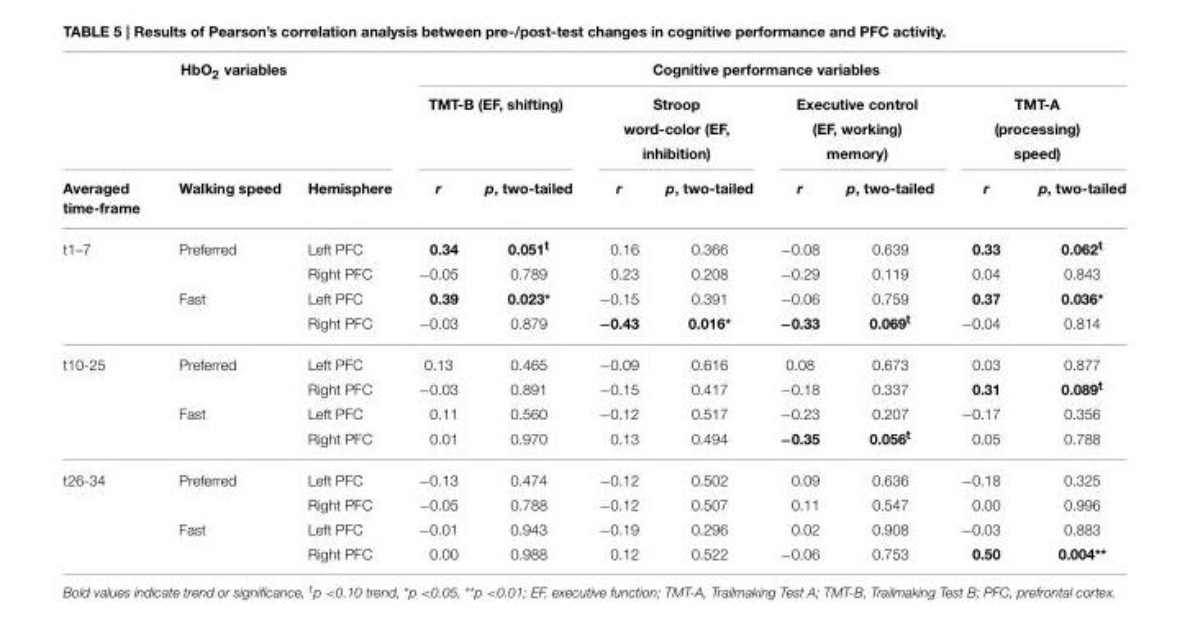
<table><thead><tr><td colspan="3">HbO<sub>2</sub> variables</td><td colspan="8">Cognitive performance variables</td></tr><tr><td rowspan="2">Averaged time-frame</td><td rowspan="2">Walking speed</td><td rowspan="2">Hemisphere</td><td colspan="2">TMT-B (EF, shifting)</td><td colspan="2">Stroop word-color (EF, inhibition)</td><td colspan="2">Executive control (EF, working) memory)</td><td colspan="2">TMT-A (processing) speed)</td></tr><tr><td>r</td><td>p, two-tailed</td><td>r</td><td>p, two-tailed</td><td>r</td><td>p, two-tailed</td><td>r</td><td>p, two-tailed</td></tr></thead><tbody><tr><td rowspan="4">t1–7</td><td>Preferred</td><td>Left PFC</td><td>0.34</td><td>0.051<sup>t</sup></td><td>0.16</td><td>0.366</td><td>−0.08</td><td>0.639</td><td>0.33</td><td>0.062<sup>t</sup></td></tr><tr><td></td><td>Right PFC</td><td>−0.05</td><td>0.789</td><td>0.23</td><td>0.208</td><td>−0.29</td><td>0.119</td><td>0.04</td><td>0.843</td></tr><tr><td>Fast</td><td>Left PFC</td><td>0.39</td><td>0.023*</td><td>−0.15</td><td>0.391</td><td>−0.06</td><td>0.759</td><td>0.37</td><td>0.036*</td></tr><tr><td></td><td>Right PFC</td><td>−0.03</td><td>0.879</td><td>−0.43</td><td>0.016*</td><td>−0.33</td><td>0.069<sup>t</sup></td><td>−0.04</td><td>0.814</td></tr><tr><td rowspan="4">t10-25</td><td>Preferred</td><td>Left PFC</td><td>0.13</td><td>0.465</td><td>−0.09</td><td>0.616</td><td>0.08</td><td>0.673</td><td>0.03</td><td>0.877</td></tr><tr><td></td><td>Right PFC</td><td>−0.03</td><td>0.891</td><td>−0.15</td><td>0.417</td><td>−0.18</td><td>0.337</td><td>0.31</td><td>0.089<sup>t</sup></td></tr><tr><td>Fast</td><td>Left PFC</td><td>0.11</td><td>0.560</td><td>−0.12</td><td>0.517</td><td>−0.23</td><td>0.207</td><td>−0.17</td><td>0.356</td></tr><tr><td></td><td>Right PFC</td><td>0.01</td><td>0.970</td><td>0.13</td><td>0.494</td><td>−0.35</td><td>0.056<sup>t</sup></td><td>0.05</td><td>0.788</td></tr><tr><td rowspan="4">t26-34</td><td>Preferred</td><td>Left PFC</td><td>−0.13</td><td>0.474</td><td>−0.12</td><td>0.502</td><td>0.09</td><td>0.636</td><td>−0.18</td><td>0.325</td></tr><tr><td></td><td>Right PFC</td><td>−0.05</td><td>0.788</td><td>−0.12</td><td>0.507</td><td>0.11</td><td>0.547</td><td>0.00</td><td>0.996</td></tr><tr><td>Fast</td><td>Left PFC</td><td>−0.01</td><td>0.943</td><td>−0.19</td><td>0.296</td><td>0.02</td><td>0.908</td><td>−0.03</td><td>0.883</td></tr><tr><td></td><td>Right PFC</td><td>0.00</td><td>0.988</td><td>0.12</td><td>0.522</td><td>−0.06</td><td>0.753</td><td>0.50</td><td>0.004**</td></tr></tbody></table>